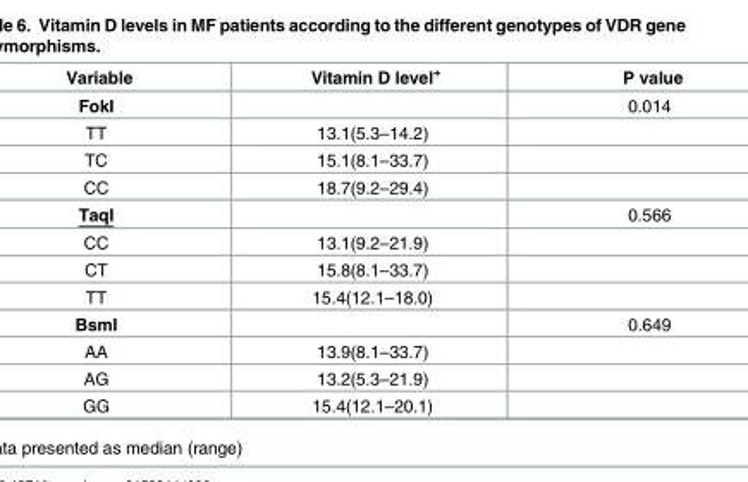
<table><thead><tr><td>Variable</td><td>Vitamin D level<sup>+</sup></td><td>P value</td></tr></thead><tbody><tr><td>FokI</td><td></td><td>0.014</td></tr><tr><td>TT</td><td>13.1(5.3–14.2)</td><td></td></tr><tr><td>TC</td><td>15.1(8.1–33.7)</td><td></td></tr><tr><td>CC</td><td>18.7(9.2–29.4)</td><td></td></tr><tr><td>TaqI</td><td></td><td>0.566</td></tr><tr><td>CC</td><td>13.1(9.2–21.9)</td><td></td></tr><tr><td>CT</td><td>15.8(8.1–33.7)</td><td></td></tr><tr><td>TT</td><td>15.4(12.1–18.0)</td><td></td></tr><tr><td>BsmI</td><td></td><td>0.649</td></tr><tr><td>AA</td><td>13.9(8.1–33.7)</td><td></td></tr><tr><td>AG</td><td>13.2(5.3–21.9)</td><td></td></tr><tr><td>GG</td><td>15.4(12.1–20.1)</td><td></td></tr></tbody></table>